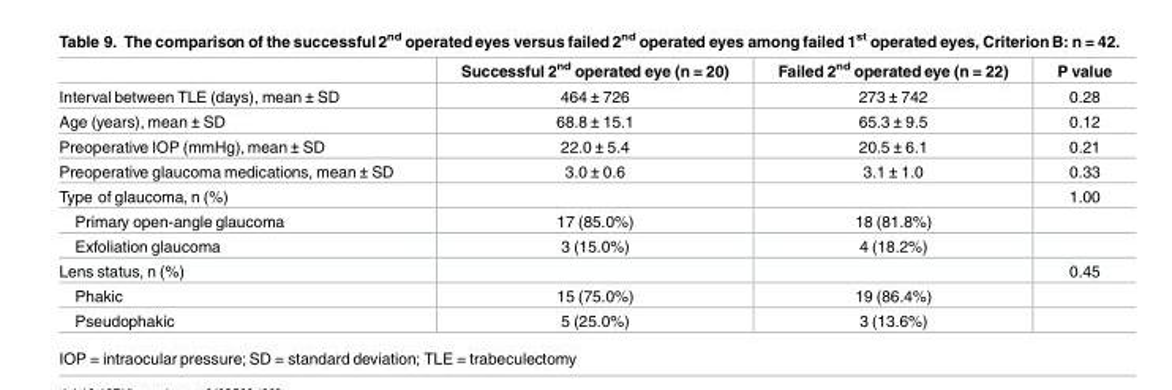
<table><thead><tr><td></td><td>Successful 2<sup>nd</sup> operated eye (n = 20)</td><td>Failed 2<sup>nd</sup> operated eye (n = 22)</td><td>P value</td></tr></thead><tbody><tr><td>Interval between TLE (days), mean ± SD</td><td>464 ± 726</td><td>273 ± 742</td><td>0.28</td></tr><tr><td>Age (years), mean ± SD</td><td>68.8 ± 15.1</td><td>65.3 ± 9.5</td><td>0.12</td></tr><tr><td>Preoperative IOP (mmHg), mean ± SD</td><td>22.0 ± 5.4</td><td>20.5 ± 6.1</td><td>0.21</td></tr><tr><td>Preoperative glaucoma medications, mean ± SD</td><td>3.0 ± 0.6</td><td>3.1 ± 1.0</td><td>0.33</td></tr><tr><td>Type of glaucoma, n (%)</td><td></td><td></td><td>1.00</td></tr><tr><td>Primary open-angle glaucoma</td><td>17 (85.0%)</td><td>18 (81.8%)</td><td></td></tr><tr><td>Exfoliation glaucoma</td><td>3 (15.0%)</td><td>4 (18.2%)</td><td></td></tr><tr><td>Lens status, n (%)</td><td></td><td></td><td>0.45</td></tr><tr><td>Phakic</td><td>15 (75.0%)</td><td>19 (86.4%)</td><td></td></tr><tr><td>Pseudophakic</td><td>5 (25.0%)</td><td>3 (13.6%)</td><td></td></tr></tbody></table>